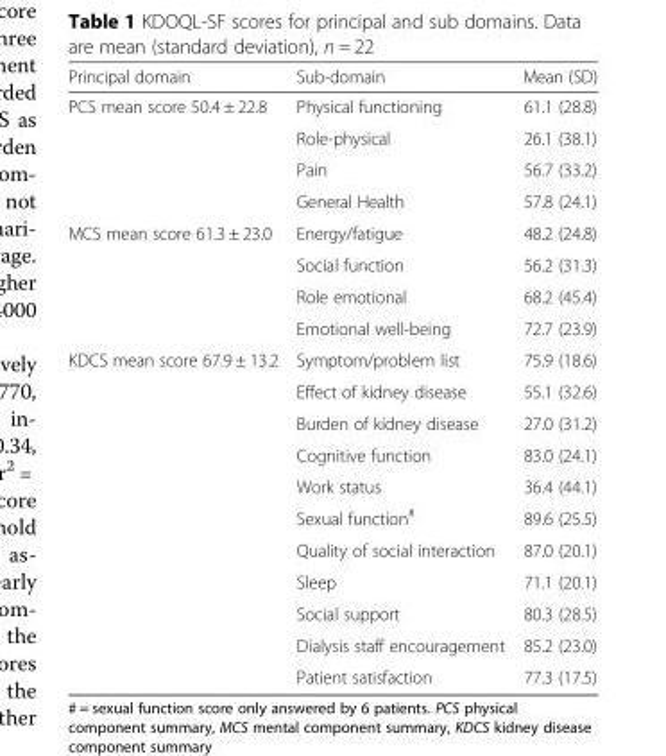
<table><thead><tr><td>Principal domain</td><td>Sub-domain</td><td>Mean (SD)</td></tr></thead><tbody><tr><td rowspan="4">PCS mean score 50.4 ± 22.8</td><td>Physical functioning</td><td>61.1 (28.8)</td></tr><tr><td>Role-physical</td><td>26.1 (38.1)</td></tr><tr><td>Pain</td><td>56.7 (33.2)</td></tr><tr><td>General Health</td><td>57.8 (24.1)</td></tr><tr><td rowspan="4">MCS mean score 61.3 ± 23.0</td><td>Energy/fatigue</td><td>48.2 (24.8)</td></tr><tr><td>Social function</td><td>56.2 (31.3)</td></tr><tr><td>Role emotional</td><td>68.2 (45.4)</td></tr><tr><td>Emotional well-being</td><td>72.7 (23.9)</td></tr><tr><td rowspan="11">KDCS mean score 67.9 ± 13.2</td><td>Symptom/problem list</td><td>75.9 (18.6)</td></tr><tr><td>Effect of kidney disease</td><td>55.1 (32.6)</td></tr><tr><td>Burden of kidney disease</td><td>27.0 (31.2)</td></tr><tr><td>Cognitive function</td><td>83.0 (24.1)</td></tr><tr><td>Work status</td><td>36.4 (44.1)</td></tr><tr><td>Sexual function<sup>#</sup></td><td>89.6 (25.5)</td></tr><tr><td>Quality of social interaction</td><td>87.0 (20.1)</td></tr><tr><td>Sleep</td><td>71.1 (20.1)</td></tr><tr><td>Social support</td><td>80.3 (28.5)</td></tr><tr><td>Dialysis staff encouragement</td><td>85.2 (23.0)</td></tr><tr><td>Patient satisfaction</td><td>77.3 (17.5)</td></tr></tbody></table>